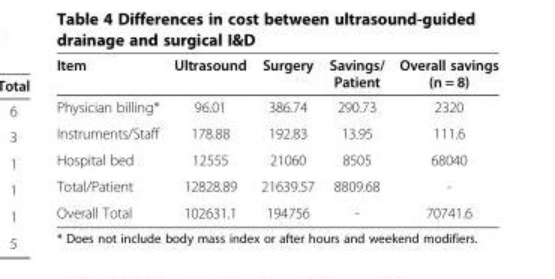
<table><thead><tr><td>Item</td><td>Ultrasound</td><td>Surgery</td><td>Savings/ Patient</td><td>Overall savings (n = 8)</td></tr></thead><tbody><tr><td>Physician billing*</td><td>96.01</td><td>386.74</td><td>290.73</td><td>2320</td></tr><tr><td>Instruments/Staff</td><td>178.88</td><td>192.83</td><td>13.95</td><td>111.6</td></tr><tr><td>Hospital bed</td><td>12555</td><td>21060</td><td>8505</td><td>68040</td></tr><tr><td>Total/Patient</td><td>12828.89</td><td>21639.57</td><td>8809.68</td><td>-</td></tr><tr><td>Overall Total</td><td>102631.1</td><td>194756</td><td>-</td><td>70741.6</td></tr></tbody></table>